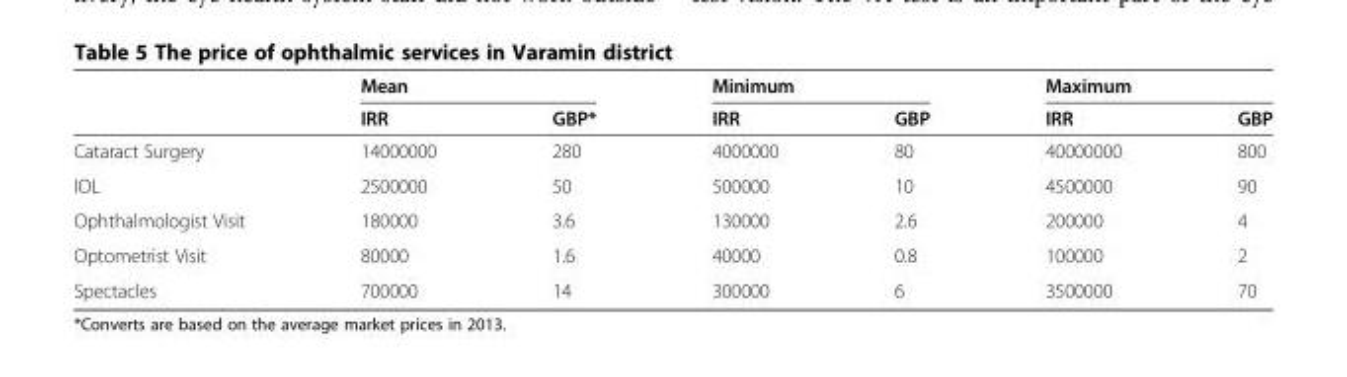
<table><thead><tr><td rowspan="2"></td><td colspan="2">Mean</td><td colspan="2">Minimum</td><td colspan="2">Maximum</td></tr><tr><td>IRR</td><td>GBP*</td><td>IRR</td><td>GBP</td><td>IRR</td><td>GBP</td></tr></thead><tbody><tr><td>Cataract Surgery</td><td>14000000</td><td>280</td><td>4000000</td><td>80</td><td>40000000</td><td>800</td></tr><tr><td>IOL</td><td>2500000</td><td>50</td><td>500000</td><td>10</td><td>4500000</td><td>90</td></tr><tr><td>Ophthalmologist Visit</td><td>180000</td><td>3.6</td><td>130000</td><td>2.6</td><td>200000</td><td>4</td></tr><tr><td>Optometrist Visit</td><td>80000</td><td>1.6</td><td>40000</td><td>0.8</td><td>100000</td><td>2</td></tr><tr><td>Spectacles</td><td>700000</td><td>14</td><td>300000</td><td>6</td><td>3500000</td><td>70</td></tr></tbody></table>